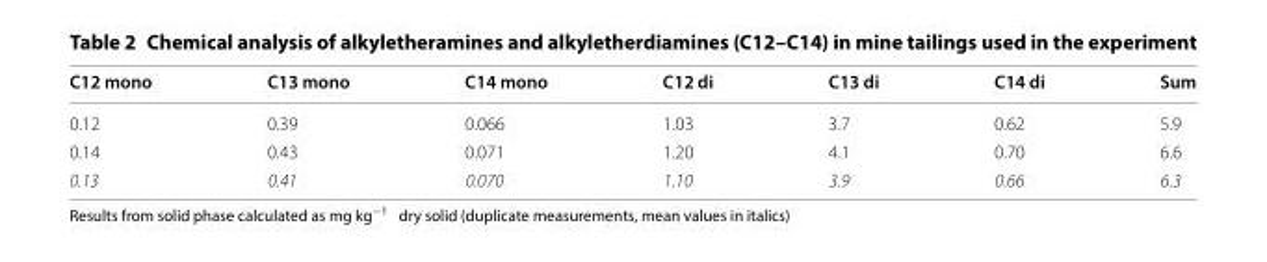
<table><thead><tr><td>C12 mono</td><td>C13 mono</td><td>C14 mono</td><td>C12 di</td><td>C13 di</td><td>C14 di</td><td>Sum</td></tr></thead><tbody><tr><td>0.12</td><td>0.39</td><td>0.066</td><td>1.03</td><td>3.7</td><td>0.62</td><td>5.9</td></tr><tr><td>0.14</td><td>0.43</td><td>0.071</td><td>1.20</td><td>4.1</td><td>0.70</td><td>6.6</td></tr><tr><td>0.13</td><td>0.41</td><td>0.070</td><td>1.10</td><td>3.9</td><td>0.66</td><td>6.3</td></tr></tbody></table>